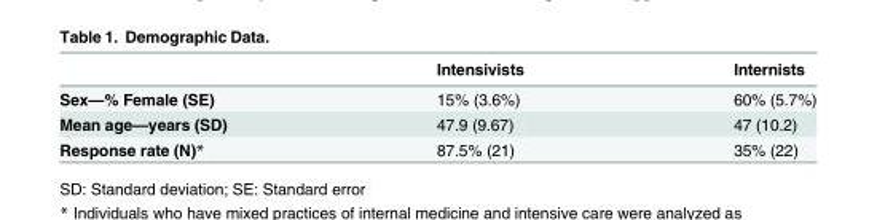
<table><thead><tr><td></td><td>Intensivists</td><td>Internists</td></tr></thead><tbody><tr><td>Sex—% Female (SE)</td><td>15% (3.6%)</td><td>60% (5.7%)</td></tr><tr><td>Mean age—years (SD)</td><td>47.9 (9.67)</td><td>47 (10.2)</td></tr><tr><td>Response rate (N)*</td><td>87.5% (21)</td><td>35% (22)</td></tr></tbody></table>